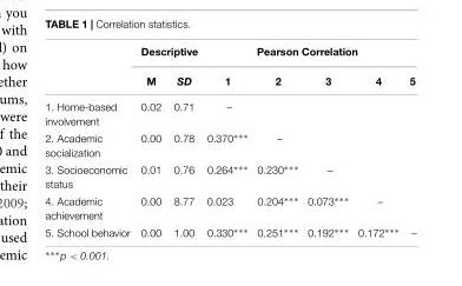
<table><thead><tr><td rowspan="2"></td><td colspan="2">Descriptive</td><td colspan="5">Pearson Correlation</td></tr><tr><td>M</td><td>SD</td><td>1</td><td>2</td><td>3</td><td>4</td><td>5</td></tr></thead><tbody><tr><td>1. Home-based involvement</td><td>0.02</td><td>0.71</td><td>–</td><td></td><td></td><td></td><td></td></tr><tr><td>2. Academic socialization</td><td>0.00</td><td>0.78</td><td>0.370∗∗∗</td><td>–</td><td></td><td></td><td></td></tr><tr><td>3. Socioeconomic status</td><td>0.01</td><td>0.76</td><td>0.264∗∗∗</td><td>0.230∗∗∗</td><td>–</td><td></td><td></td></tr><tr><td>4. Academic achievement</td><td>0.00</td><td>8.77</td><td>0.023</td><td>0.204∗∗∗</td><td>0.073∗∗∗</td><td>–</td><td></td></tr><tr><td>5. School behavior</td><td>0.00</td><td>1.00</td><td>0.330∗∗∗</td><td>0.251∗∗∗</td><td>0.192∗∗∗</td><td>0.172∗∗∗</td><td>–</td></tr></tbody></table>